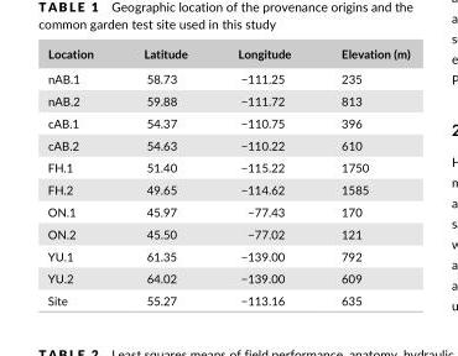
<table><thead><tr><td>Location</td><td>Latitude</td><td>Longitude</td><td>Elevation (m)</td></tr></thead><tbody><tr><td>nAB.1</td><td>58.73</td><td>−111.25</td><td>235</td></tr><tr><td>nAB.2</td><td>59.88</td><td>−111.72</td><td>813</td></tr><tr><td>cAB.1</td><td>54.37</td><td>−110.75</td><td>396</td></tr><tr><td>cAB.2</td><td>54.63</td><td>−110.22</td><td>610</td></tr><tr><td>FH.1</td><td>51.40</td><td>−115.22</td><td>1750</td></tr><tr><td>FH.2</td><td>49.65</td><td>−114.62</td><td>1585</td></tr><tr><td>ON.1</td><td>45.97</td><td>−77.43</td><td>170</td></tr><tr><td>ON.2</td><td>45.50</td><td>−77.02</td><td>121</td></tr><tr><td>YU.1</td><td>61.35</td><td>−139.00</td><td>792</td></tr><tr><td>YU.2</td><td>64.02</td><td>−139.00</td><td>609</td></tr><tr><td>Site</td><td>55.27</td><td>−113.16</td><td>635</td></tr></tbody></table>